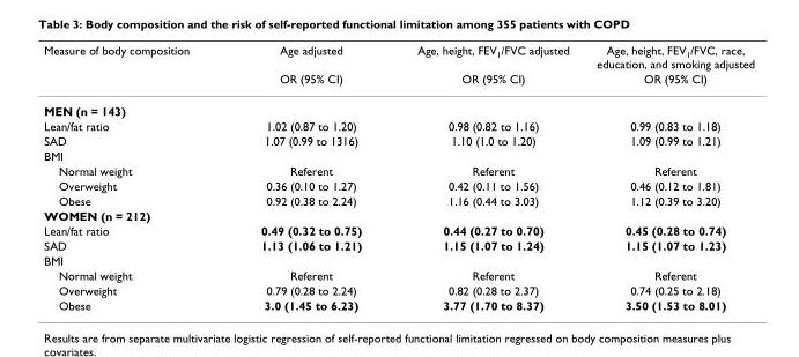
<table><thead><tr><td rowspan="2">Measure of body composition</td><td rowspan="2">Age adjusted OR (95% CI)</td><td rowspan="2">Age, height, FEV<sub>1</sub>/FVC adjusted OR (95% CI)</td><td rowspan="2">Age, height, FEV<sub>1</sub>/FVC, race, education, and smoking adjusted OR (95% CI)</td></tr><tr></tr></thead><tbody><tr><td colspan="4">MEN (n = 143)</td></tr><tr><td>Lean/fat ratio</td><td>1.02 (0.87 to 1.20)</td><td>0.98 (0.82 to 1.16)</td><td>0.99 (0.83 to 1.18)</td></tr><tr><td>SAD</td><td>1.07 (0.99 to 1316)</td><td>1.10 (1.0 to 1.20)</td><td>1.09 (0.99 to 1.21)</td></tr><tr><td colspan="4">BMI</td></tr><tr><td>Normal weight</td><td>Referent</td><td>Referent</td><td>Referent</td></tr><tr><td>Overweight</td><td>0.36 (0.10 to 1.27)</td><td>0.42 (0.11 to 1.56)</td><td>0.46 (0.12 to 1.81)</td></tr><tr><td>Obese</td><td>0.92 (0.38 to 2.24)</td><td>1.16 (0.44 to 3.03)</td><td>1.12 (0.39 to 3.20)</td></tr><tr><td colspan="4">WOMEN (n = 212)</td></tr><tr><td>Lean/fat ratio</td><td>0.49 (0.32 to 0.75)</td><td>0.44 (0.27 to 0.70)</td><td>0.45 (0.28 to 0.74)</td></tr><tr><td>SAD</td><td>1.13 (1.06 to 1.21)</td><td>1.15 (1.07 to 1.24)</td><td>1.15 (1.07 to 1.23)</td></tr><tr><td colspan="4">BMI</td></tr><tr><td>Normal weight</td><td>Referent</td><td>Referent</td><td>Referent</td></tr><tr><td>Overweight</td><td>0.79 (0.28 to 2.24)</td><td>0.82 (0.28 to 2.37)</td><td>0.74 (0.25 to 2.18)</td></tr><tr><td>Obese</td><td>3.0 (1.45 to 6.23)</td><td>3.77 (1.70 to 8.37)</td><td>3.50 (1.53 to 8.01)</td></tr></tbody></table>